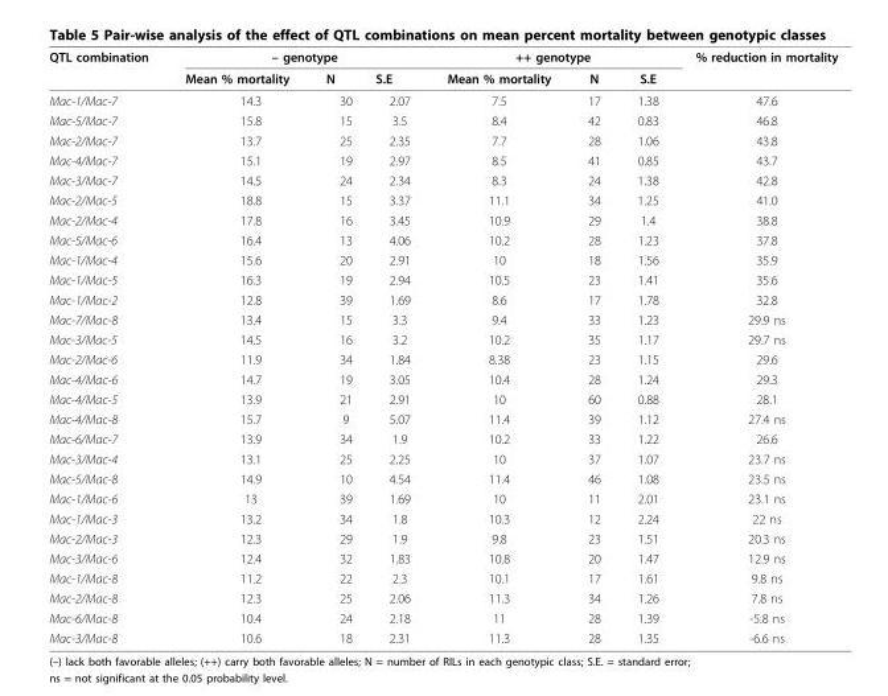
<table><thead><tr><td rowspan="2">QTL combination</td><td colspan="3">– genotype</td><td colspan="3">++ genotype</td><td rowspan="2">% reduction in mortality</td></tr><tr><td>Mean % mortality</td><td>N</td><td>S.E</td><td>Mean % mortality</td><td>N</td><td>S.E</td></tr></thead><tbody><tr><td>Mac-1/Mac-7</td><td>14.3</td><td>30</td><td>2.07</td><td>7.5</td><td>17</td><td>1.38</td><td>47.6</td></tr><tr><td>Mac-5/Mac-7</td><td>15.8</td><td>15</td><td>3.5</td><td>8.4</td><td>42</td><td>0.83</td><td>46.8</td></tr><tr><td>Mac-2/Mac-7</td><td>13.7</td><td>25</td><td>2.35</td><td>7.7</td><td>28</td><td>1.06</td><td>43.8</td></tr><tr><td>Mac-4/Mac-7</td><td>15.1</td><td>19</td><td>2.97</td><td>8.5</td><td>41</td><td>0.85</td><td>43.7</td></tr><tr><td>Mac-3/Mac-7</td><td>14.5</td><td>24</td><td>2.34</td><td>8.3</td><td>24</td><td>1.38</td><td>42.8</td></tr><tr><td>Mac-2/Mac-5</td><td>18.8</td><td>15</td><td>3.37</td><td>11.1</td><td>34</td><td>1.25</td><td>41.0</td></tr><tr><td>Mac-2/Mac-4</td><td>17.8</td><td>16</td><td>3.45</td><td>10.9</td><td>29</td><td>1.4</td><td>38.8</td></tr><tr><td>Mac-5/Mac-6</td><td>16.4</td><td>13</td><td>4.06</td><td>10.2</td><td>28</td><td>1.23</td><td>37.8</td></tr><tr><td>Mac-1/Mac-4</td><td>15.6</td><td>20</td><td>2.91</td><td>10</td><td>18</td><td>1.56</td><td>35.9</td></tr><tr><td>Mac-1/Mac-5</td><td>16.3</td><td>19</td><td>2.94</td><td>10.5</td><td>23</td><td>1.41</td><td>35.6</td></tr><tr><td>Mac-1/Mac-2</td><td>12.8</td><td>39</td><td>1.69</td><td>8.6</td><td>17</td><td>1.78</td><td>32.8</td></tr><tr><td>Mac-7/Mac-8</td><td>13.4</td><td>15</td><td>3.3</td><td>9.4</td><td>33</td><td>1.23</td><td>29.9 ns</td></tr><tr><td>Mac-3/Mac-5</td><td>14.5</td><td>16</td><td>3.2</td><td>10.2</td><td>35</td><td>1.17</td><td>29.7 ns</td></tr><tr><td>Mac-2/Mac-6</td><td>11.9</td><td>34</td><td>1.84</td><td>8.38</td><td>23</td><td>1.15</td><td>29.6</td></tr><tr><td>Mac-4/Mac-6</td><td>14.7</td><td>19</td><td>3.05</td><td>10.4</td><td>28</td><td>1.24</td><td>29.3</td></tr><tr><td>Mac-4/Mac-5</td><td>13.9</td><td>21</td><td>2.91</td><td>10</td><td>60</td><td>0.88</td><td>28.1</td></tr><tr><td>Mac-4/Mac-8</td><td>15.7</td><td>9</td><td>5.07</td><td>11.4</td><td>39</td><td>1.12</td><td>27.4 ns</td></tr><tr><td>Mac-6/Mac-7</td><td>13.9</td><td>34</td><td>1.9</td><td>10.2</td><td>33</td><td>1.22</td><td>26.6</td></tr><tr><td>Mac-3/Mac-4</td><td>13.1</td><td>25</td><td>2.25</td><td>10</td><td>37</td><td>1.07</td><td>23.7 ns</td></tr><tr><td>Mac-5/Mac-8</td><td>14.9</td><td>10</td><td>4.54</td><td>11.4</td><td>46</td><td>1.08</td><td>23.5 ns</td></tr><tr><td>Mac-1/Mac-6</td><td>13</td><td>39</td><td>1.69</td><td>10</td><td>11</td><td>2.01</td><td>23.1 ns</td></tr><tr><td>Mac-1/Mac-3</td><td>13.2</td><td>34</td><td>1.8</td><td>10.3</td><td>12</td><td>2.24</td><td>22 ns</td></tr><tr><td>Mac-2/Mac-3</td><td>12.3</td><td>29</td><td>1.9</td><td>9.8</td><td>23</td><td>1.51</td><td>20.3 ns</td></tr><tr><td>Mac-3/Mac-6</td><td>12.4</td><td>32</td><td>1.83</td><td>10.8</td><td>20</td><td>1.47</td><td>12.9 ns</td></tr><tr><td>Mac-1/Mac-8</td><td>11.2</td><td>22</td><td>2.3</td><td>10.1</td><td>17</td><td>1.61</td><td>9.8 ns</td></tr><tr><td>Mac-2/Mac-8</td><td>12.3</td><td>25</td><td>2.06</td><td>11.3</td><td>34</td><td>1.26</td><td>7.8 ns</td></tr><tr><td>Mac-6/Mac-8</td><td>10.4</td><td>24</td><td>2.18</td><td>11</td><td>28</td><td>1.39</td><td>-5.8 ns</td></tr><tr><td>Mac-3/Mac-8</td><td>10.6</td><td>18</td><td>2.31</td><td>11.3</td><td>28</td><td>1.35</td><td>-6.6 ns</td></tr></tbody></table>